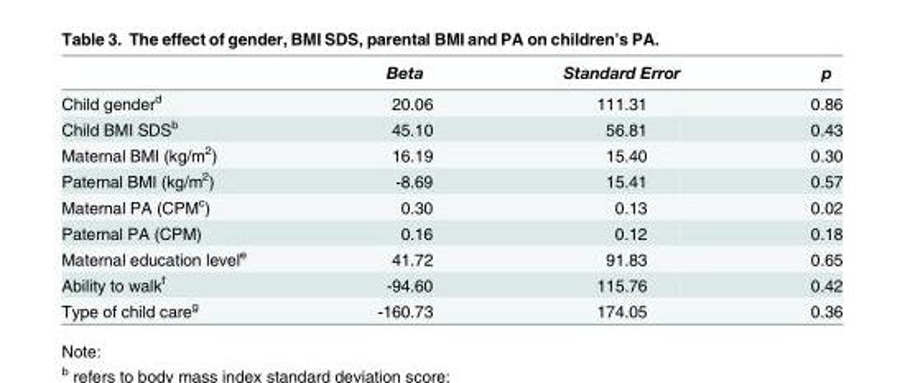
<table><thead><tr><td></td><td>Beta</td><td>Standard Error</td><td>p</td></tr></thead><tbody><tr><td>Child gender<sup>d</sup></td><td>20.06</td><td>111.31</td><td>0.86</td></tr><tr><td>Child BMI SDS<sup>b</sup></td><td>45.10</td><td>56.81</td><td>0.43</td></tr><tr><td>Maternal BMI (kg/m<sup>2</sup>)</td><td>16.19</td><td>15.40</td><td>0.30</td></tr><tr><td>Paternal BMI (kg/m<sup>2</sup>)</td><td>-8.69</td><td>15.41</td><td>0.57</td></tr><tr><td>Maternal PA (CPM<sup>c</sup>)</td><td>0.30</td><td>0.13</td><td>0.02</td></tr><tr><td>Paternal PA (CPM)</td><td>0.16</td><td>0.12</td><td>0.18</td></tr><tr><td>Maternal education level<sup>e</sup></td><td>41.72</td><td>91.83</td><td>0.65</td></tr><tr><td>Ability to walk<sup>f</sup></td><td>-94.60</td><td>115.76</td><td>0.42</td></tr><tr><td>Type of child care<sup>g</sup></td><td>-160.73</td><td>174.05</td><td>0.36</td></tr></tbody></table>